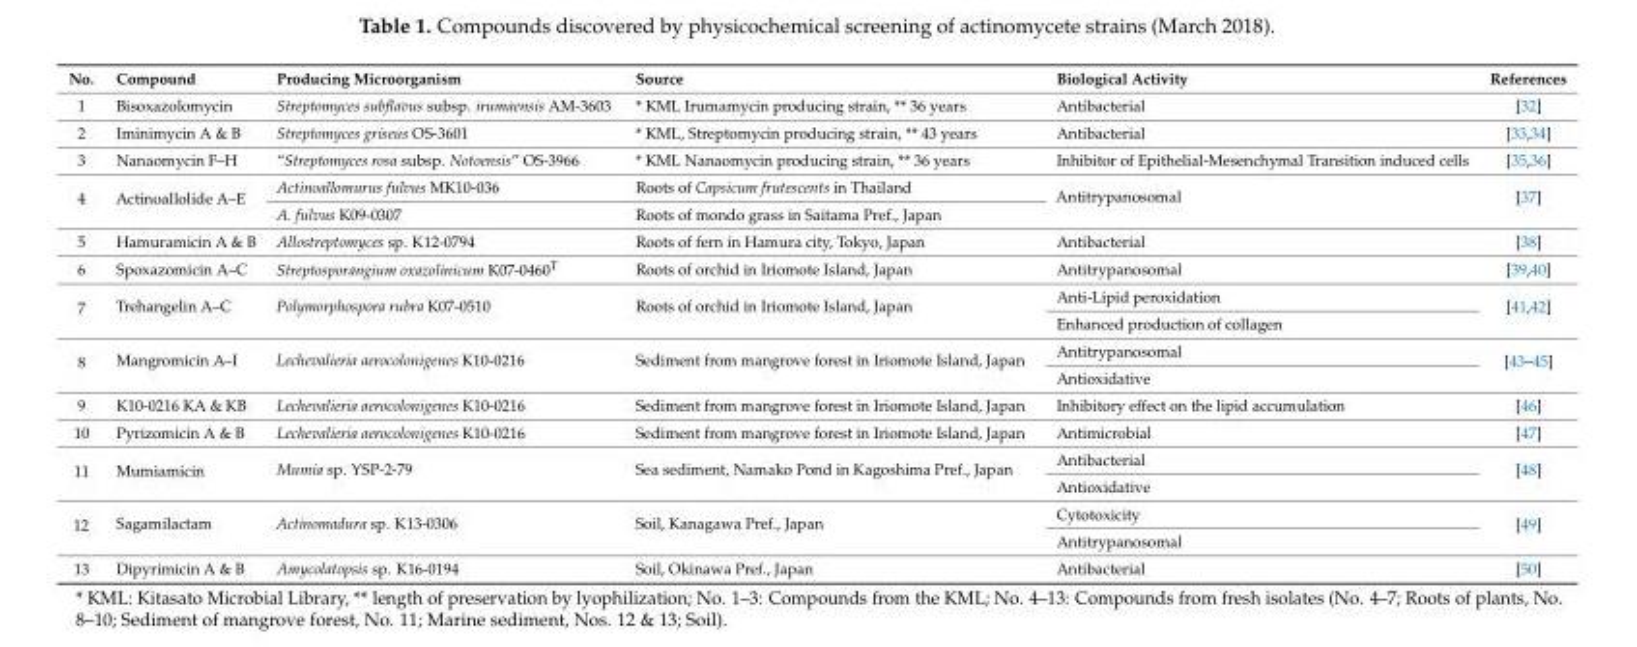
<table><thead><tr><td>No.</td><td>Compound</td><td>Producing Microorganism</td><td>Source</td><td>Biological Activity</td><td>References</td></tr></thead><tbody><tr><td>1</td><td>Bisoxazolomycin</td><td>Streptomyces subflavus subsp. irumaensis AM-3603</td><td>* KML Irumamycin producing strain, ** 36 years</td><td>Antibacterial</td><td>[32]</td></tr><tr><td>2</td><td>Iminimycin A &amp; B</td><td>Streptomyces griseus OS-3601</td><td>* KML, Streptomycin producing strain, ** 43 years</td><td>Antibacterial</td><td>[33,34]</td></tr><tr><td>3</td><td>Nanaomycin F–H</td><td>“Streptomyces rosa subsp. Notoensis” OS-3966</td><td>* KML Nanaomycin producing strain, ** 36 years</td><td>Inhibitor of Epithelial-Mesenchymal Transition induced cells</td><td>[35,36]</td></tr><tr><td rowspan="2">4</td><td rowspan="2">Actinoallolide A–E</td><td>Actinoallomurus fulvus MK10-036</td><td>Roots of Capsicum frutescents in Thailand</td><td rowspan="2">Antitrypanosomal</td><td rowspan="2">[37]</td></tr><tr><td>A. fulvus K09-0307</td><td>Roots of mondo grass in Saitama Pref., Japan</td></tr><tr><td>5</td><td>Hamuramicin A &amp; B</td><td>Allostreptomyces sp. K12-0794</td><td>Roots of fern in Hamura city, Tokyo, Japan</td><td>Antibacterial</td><td>[38]</td></tr><tr><td>6</td><td>Spoxazomicin A–C</td><td>Streptosporangium oxazolinicum K07-0460<sup>T</sup></td><td>Roots of orchid in Iriomote Island, Japan</td><td>Antitrypanosomal</td><td>[39,40]</td></tr><tr><td rowspan="2">7</td><td rowspan="2">Trehangelin A–C</td><td rowspan="2">Polymorphospora rubra K07-0510</td><td rowspan="2">Roots of orchid in Iriomote Island, Japan</td><td>Anti-Lipid peroxidation</td><td rowspan="2">[41,42]</td></tr><tr><td>Enhanced production of collagen</td></tr><tr><td rowspan="2">8</td><td rowspan="2">Mangromicin A–I</td><td rowspan="2">Lechevalieria aerocolonigenes K10-0216</td><td rowspan="2">Sediment from mangrove forest in Iriomote Island, Japan</td><td>Antitrypanosomal</td><td rowspan="2">[43–45]</td></tr><tr><td>Antioxidative</td></tr><tr><td>9</td><td>K10-0216 KA &amp; KB</td><td>Lechevalieria aerocolonigenes K10-0216</td><td>Sediment from mangrove forest in Iriomote Island, Japan</td><td>Inhibitory effect on the lipid accumulation</td><td>[46]</td></tr><tr><td>10</td><td>Pyrizomicin A &amp; B</td><td>Lechevalieria aerocolonigenes K10-0216</td><td>Sediment from mangrove forest in Iriomote Island, Japan</td><td>Antimicrobial</td><td>[47]</td></tr><tr><td rowspan="2">11</td><td rowspan="2">Mumiamicin</td><td rowspan="2">Mumia sp. YSP-2-79</td><td rowspan="2">Sea sediment, Namako Pond in Kagoshima Pref., Japan</td><td>Antibacterial</td><td rowspan="2">[48]</td></tr><tr><td>Antioxidative</td></tr><tr><td rowspan="2">12</td><td rowspan="2">Sagamilactam</td><td rowspan="2">Actinomadura sp. K13-0306</td><td rowspan="2">Soil, Kanagawa Pref., Japan</td><td>Cytotoxicity</td><td rowspan="2">[49]</td></tr><tr><td>Antitrypanosomal</td></tr><tr><td>13</td><td>Dipyrimicin A &amp; B</td><td>Amycolatopsis sp. K16-0194</td><td>Soil, Okinawa Pref., Japan</td><td>Antibacterial</td><td>[50]</td></tr></tbody></table>